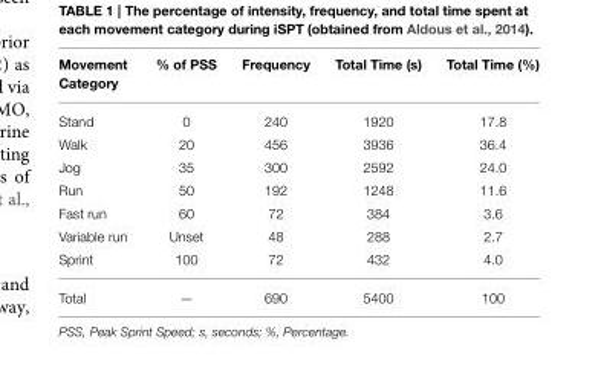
<table><thead><tr><td>Movement Category</td><td>% of PSS</td><td>Frequency</td><td>Total Time (s)</td><td>Total Time (%)</td></tr></thead><tbody><tr><td>Stand</td><td>0</td><td>240</td><td>1920</td><td>17.8</td></tr><tr><td>Walk</td><td>20</td><td>456</td><td>3936</td><td>36.4</td></tr><tr><td>Jog</td><td>35</td><td>300</td><td>2592</td><td>24.0</td></tr><tr><td>Run</td><td>50</td><td>192</td><td>1248</td><td>11.6</td></tr><tr><td>Fast run</td><td>60</td><td>72</td><td>384</td><td>3.6</td></tr><tr><td>Variable run</td><td>Unset</td><td>48</td><td>288</td><td>2.7</td></tr><tr><td>Sprint</td><td>100</td><td>72</td><td>432</td><td>4.0</td></tr><tr><td>Total</td><td>—</td><td>690</td><td>5400</td><td>100</td></tr></tbody></table>